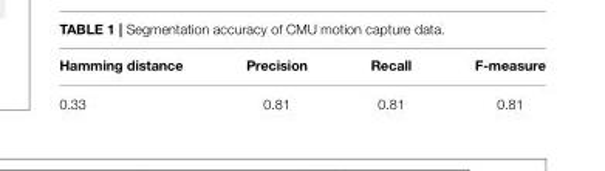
<table><thead><tr><td>Hamming distance</td><td>Precision</td><td>Recall</td><td>F-measure</td></tr></thead><tbody><tr><td>0.33</td><td>0.81</td><td>0.81</td><td>0.81</td></tr></tbody></table>